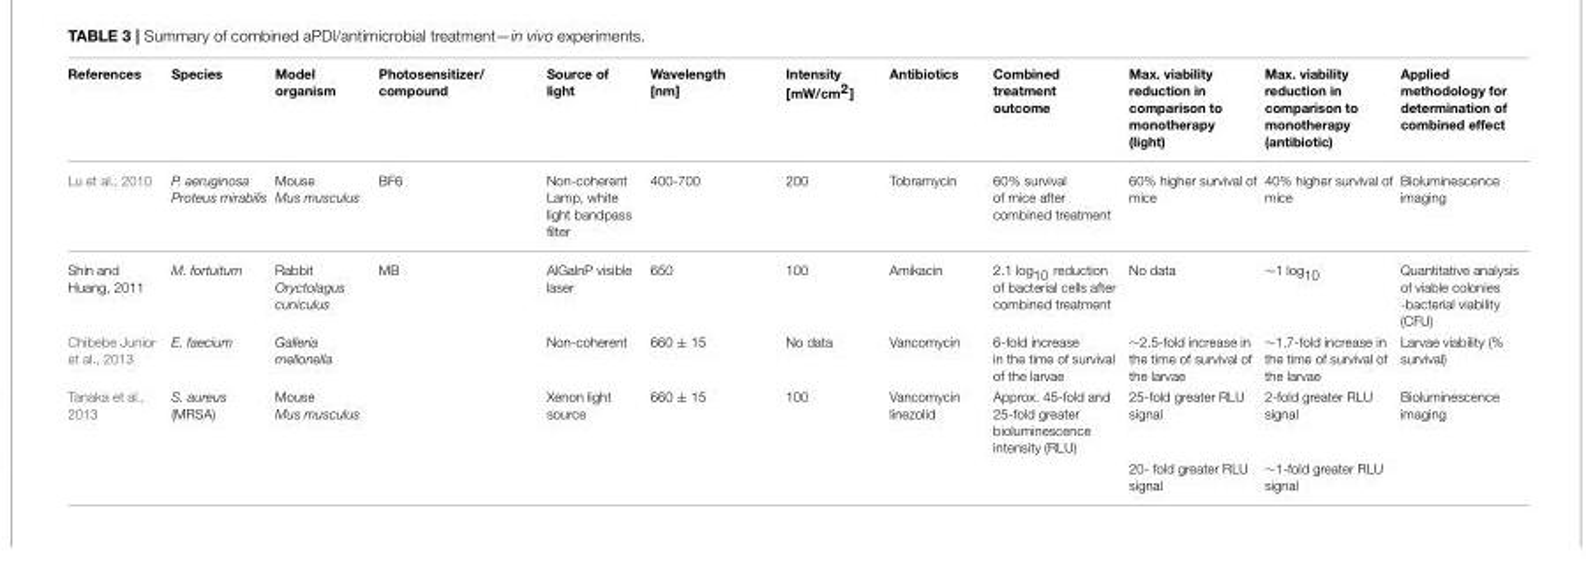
<table><thead><tr><td>References</td><td>Species</td><td>Model organism</td><td>Photosensitizer/ compound</td><td>Source of light</td><td>Wavelength [nm]</td><td>Intensity [mW/cm<sup>2</sup>]</td><td>Antibiotics</td><td>Combined treatment outcome</td><td>Max. viability reduction in comparison to monotherapy (light)</td><td>Max. viability reduction in comparison to monotherapy (antibiotic)</td><td>Applied methodology for determination of combined effect</td></tr></thead><tbody><tr><td>Lu et al., 2010</td><td>P. aeruginosa Proteus mirabilis</td><td>Mouse Mus musculus</td><td>BF6</td><td>Non-coherent Lamp, white light bandpass filter</td><td>400-700</td><td>200</td><td>Tobramycin</td><td>60% survival of mice after combined treatment</td><td>60% higher survival of mice</td><td>40% higher survival of mice</td><td>Bioluminescence imaging</td></tr><tr><td>Shin and Huang, 2011</td><td>M. fortuitum</td><td>Rabbit Oryctolagus cuniculus</td><td>MB</td><td>AlGalnP visible laser</td><td>650</td><td>100</td><td>Amikacin</td><td>2.1 log<sub>10</sub> reduction of bacterial cells after combined treatment</td><td>No data</td><td>∼1 log10</td><td>Quantitative analysis of viable colonies -bacterial viability (CFU)</td></tr><tr><td>Chibebe Junior et al., 2013</td><td>E. faecium</td><td>Galleria mellonella</td><td></td><td>Non-coherent</td><td>660 ± 15</td><td>No data</td><td>Vancomycin</td><td>6-fold increase in the time of survival of the larvae</td><td>∼2.5-fold increase in the time of survival of the larvae</td><td>∼1.7-fold increase in the time of survival of the larvae</td><td>Larvae viability (% survival)</td></tr><tr><td rowspan="2">Tanaka et al., 2013</td><td>S. aureus (MRSA)</td><td>Mouse Mus musculus</td><td></td><td>Xenon light source</td><td>660 ± 15</td><td>100</td><td>Vancomycin linezolid</td><td>Approx. 45-fold and 25-fold greater bioluminescence intensity (RLU)</td><td>25-fold greater RLU signal</td><td>2-fold greater RLU signal</td><td>Bioluminescence imaging</td></tr><tr><td></td><td></td><td></td><td></td><td></td><td></td><td></td><td></td><td>20- fold greater RLU signal</td><td>∼1-fold greater RLU signal</td><td></td></tr></tbody></table>